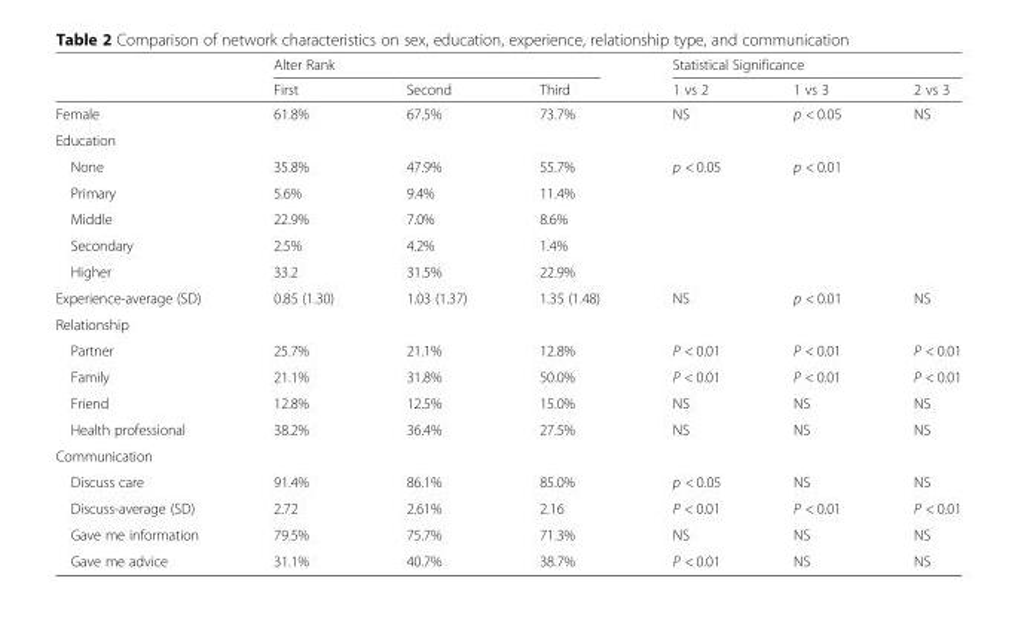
<table><thead><tr><td rowspan="2"></td><td colspan="3">Alter Rank</td><td colspan="3">Statistical Significance</td></tr><tr><td>First</td><td>Second</td><td>Third</td><td>1 vs 2</td><td>1 vs 3</td><td>2 vs 3</td></tr></thead><tbody><tr><td>Female</td><td>61.8%</td><td>67.5%</td><td>73.7%</td><td>NS</td><td>p &lt; 0.05</td><td>NS</td></tr><tr><td colspan="7">Education</td></tr><tr><td>None</td><td>35.8%</td><td>47.9%</td><td>55.7%</td><td rowspan="5">p &lt; 0.05</td><td rowspan="5">p &lt; 0.01</td><td rowspan="5"></td></tr><tr><td>Primary</td><td>5.6%</td><td>9.4%</td><td>11.4%</td></tr><tr><td>Middle</td><td>22.9%</td><td>7.0%</td><td>8.6%</td></tr><tr><td>Secondary</td><td>2.5%</td><td>4.2%</td><td>1.4%</td></tr><tr><td>Higher</td><td>33.2</td><td>31.5%</td><td>22.9%</td></tr><tr><td>Experience-average (SD)</td><td>0.85 (1.30)</td><td>1.03 (1.37)</td><td>1.35 (1.48)</td><td>NS</td><td>p &lt; 0.01</td><td>NS</td></tr><tr><td colspan="7">Relationship</td></tr><tr><td>Partner</td><td>25.7%</td><td>21.1%</td><td>12.8%</td><td>P &lt; 0.01</td><td>P &lt; 0.01</td><td>P &lt; 0.01</td></tr><tr><td>Family</td><td>21.1%</td><td>31.8%</td><td>50.0%</td><td>P &lt; 0.01</td><td>P &lt; 0.01</td><td>P &lt; 0.01</td></tr><tr><td>Friend</td><td>12.8%</td><td>12.5%</td><td>15.0%</td><td>NS</td><td>NS</td><td>NS</td></tr><tr><td>Health professional</td><td>38.2%</td><td>36.4%</td><td>27.5%</td><td>NS</td><td>NS</td><td>NS</td></tr><tr><td colspan="7">Communication</td></tr><tr><td>Discuss care</td><td>91.4%</td><td>86.1%</td><td>85.0%</td><td>p &lt; 0.05</td><td>NS</td><td>NS</td></tr><tr><td>Discuss-average (SD)</td><td>2.72</td><td>2.61%</td><td>2.16</td><td>P &lt; 0.01</td><td>P &lt; 0.01</td><td>P &lt; 0.01</td></tr><tr><td>Gave me information</td><td>79.5%</td><td>75.7%</td><td>71.3%</td><td>NS</td><td>NS</td><td>NS</td></tr><tr><td>Gave me advice</td><td>31.1%</td><td>40.7%</td><td>38.7%</td><td>P &lt; 0.01</td><td>NS</td><td>NS</td></tr></tbody></table>